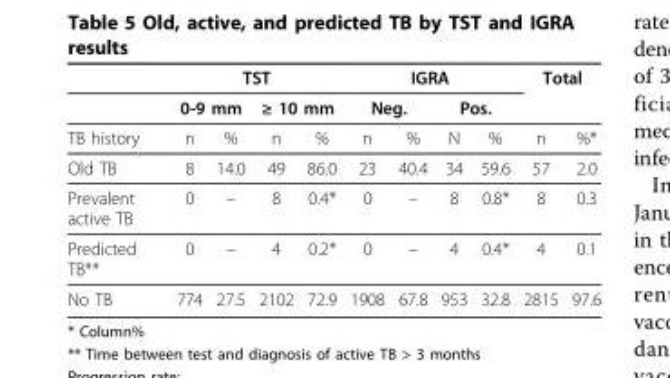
<table><thead><tr><td rowspan="3">TB history</td><td colspan="4">TST</td><td colspan="4">IGRA</td><td colspan="2">Total</td></tr><tr><td colspan="2">0-9 mm</td><td colspan="2">≥ 10 mm</td><td colspan="2">Neg.</td><td colspan="2">Pos.</td><td rowspan="2">n</td><td rowspan="2">%*</td></tr><tr><td>n</td><td>%</td><td>n</td><td>%</td><td>n</td><td>%</td><td>N</td><td>%</td></tr></thead><tbody><tr><td>Old TB</td><td>8</td><td>14.0</td><td>49</td><td>86.0</td><td>23</td><td>40.4</td><td>34</td><td>59.6</td><td>57</td><td>2.0</td></tr><tr><td>Prevalent active TB</td><td>0</td><td>–</td><td>8</td><td>0.4*</td><td>0</td><td>–</td><td>8</td><td>0.8*</td><td>8</td><td>0.3</td></tr><tr><td>Predicted TB**</td><td>0</td><td>–</td><td>4</td><td>0.2*</td><td>0</td><td>–</td><td>4</td><td>0.4*</td><td>4</td><td>0.1</td></tr><tr><td>No TB</td><td>774</td><td>27.5</td><td>2102</td><td>72.9</td><td>1908</td><td>67.8</td><td>953</td><td>32.8</td><td>2815</td><td>97.6</td></tr></tbody></table>